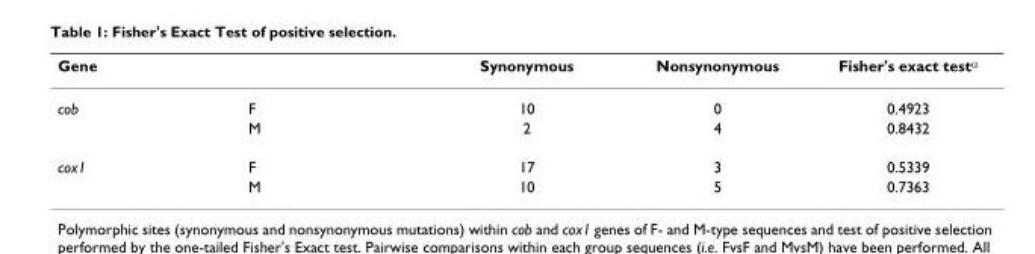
<table><thead><tr><td>Gene</td><td></td><td>Synonymous</td><td>Nonsynonymous</td><td>Fisher&#x27;s exact test<sup>α</sup></td></tr></thead><tbody><tr><td rowspan="2">cob</td><td>F</td><td>10</td><td>0</td><td>0.4923</td></tr><tr><td>M</td><td>2</td><td>4</td><td>0.8432</td></tr><tr><td rowspan="2">cox1</td><td>F</td><td>17</td><td>3</td><td>0.5339</td></tr><tr><td>M</td><td>10</td><td>5</td><td>0.7363</td></tr></tbody></table>